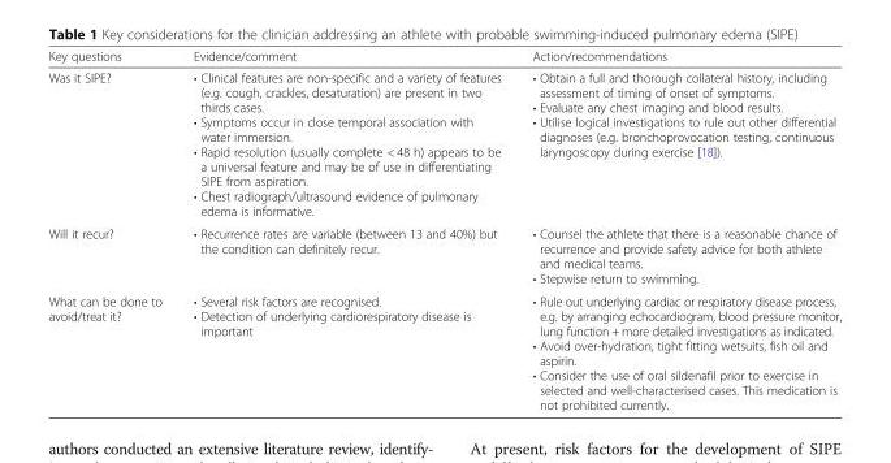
<table><thead><tr><td>Key questions</td><td>Evidence/comment</td><td>Action/recommendations</td></tr></thead><tbody><tr><td>Was it SIPE?</td><td>• Clinical features are non-specific and a variety of features (e.g. cough, crackles, desaturation) are present in two thirds cases. • Symptoms occur in close temporal association with water immersion. • Rapid resolution (usually complete &lt; 48 h) appears to be a universal feature and may be of use in differentiating SIPE from aspiration. • Chest radiograph/ultrasound evidence of pulmonary edema is informative.</td><td>• Obtain a full and thorough collateral history, including assessment of timing of onset of symptoms. • Evaluate any chest imaging and blood results. • Utilise logical investigations to rule out other differential diagnoses (e.g. bronchoprovocation testing, continuous laryngoscopy during exercise [18]).</td></tr><tr><td>Will it recur?</td><td>• Recurrence rates are variable (between 13 and 40%) but the condition can definitely recur.</td><td>• Counsel the athlete that there is a reasonable chance of recurrence and provide safety advice for both athlete and medical teams. • Stepwise return to swimming.</td></tr><tr><td>What can be done to avoid/treat it?</td><td>• Several risk factors are recognised. • Detection of underlying cardiorespiratory disease is important</td><td>• Rule out underlying cardiac or respiratory disease process, e.g. by arranging echocardiogram, blood pressure monitor, lung function + more detailed investigations as indicated. • Avoid over-hydration, tight fitting wetsuits, fish oil and aspirin. • Consider the use of oral sildenafil prior to exercise in selected and well-characterised cases. This medication is not prohibited currently.</td></tr></tbody></table>